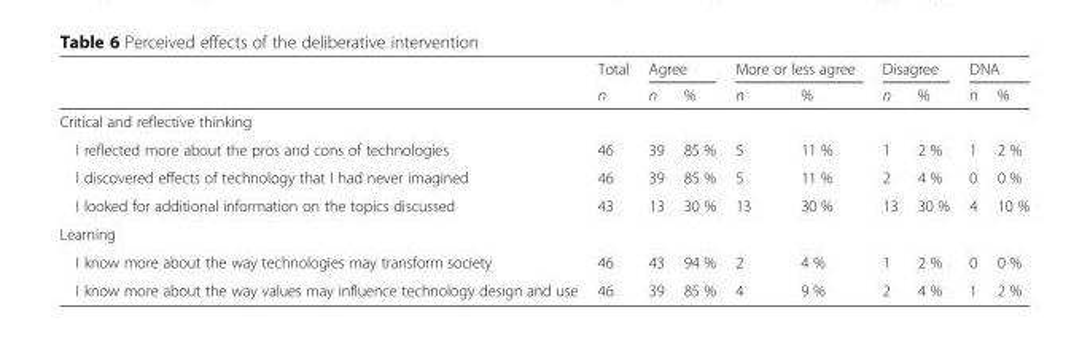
<table><thead><tr><td rowspan="2"></td><td rowspan="2">Total n</td><td colspan="2">Agree</td><td colspan="2">More or less agree</td><td colspan="2">Disagree</td><td colspan="2">DNA</td></tr><tr><td>n</td><td>%</td><td>n</td><td>%</td><td>n</td><td>%</td><td>n</td><td>%</td></tr></thead><tbody><tr><td colspan="10">Critical and reflective thinking</td></tr><tr><td>I reflected more about the pros and cons of technologies</td><td>46</td><td>39</td><td>85 %</td><td>5</td><td>11 %</td><td>1</td><td>2 %</td><td>1</td><td>2 %</td></tr><tr><td>I discovered effects of technology that I had never imagined</td><td>46</td><td>39</td><td>85 %</td><td>5</td><td>11 %</td><td>2</td><td>4 %</td><td>0</td><td>0 %</td></tr><tr><td>I looked for additional information on the topics discussed</td><td>43</td><td>13</td><td>30 %</td><td>13</td><td>30 %</td><td>13</td><td>30 %</td><td>4</td><td>10 %</td></tr><tr><td colspan="10">Learning</td></tr><tr><td>I know more about the way technologies may transform society</td><td>46</td><td>43</td><td>94 %</td><td>2</td><td>4 %</td><td>1</td><td>2 %</td><td>0</td><td>0 %</td></tr><tr><td>I know more about the way values may influence technology design and use</td><td>46</td><td>39</td><td>85 %</td><td>4</td><td>9 %</td><td>2</td><td>4 %</td><td>1</td><td>2 %</td></tr></tbody></table>